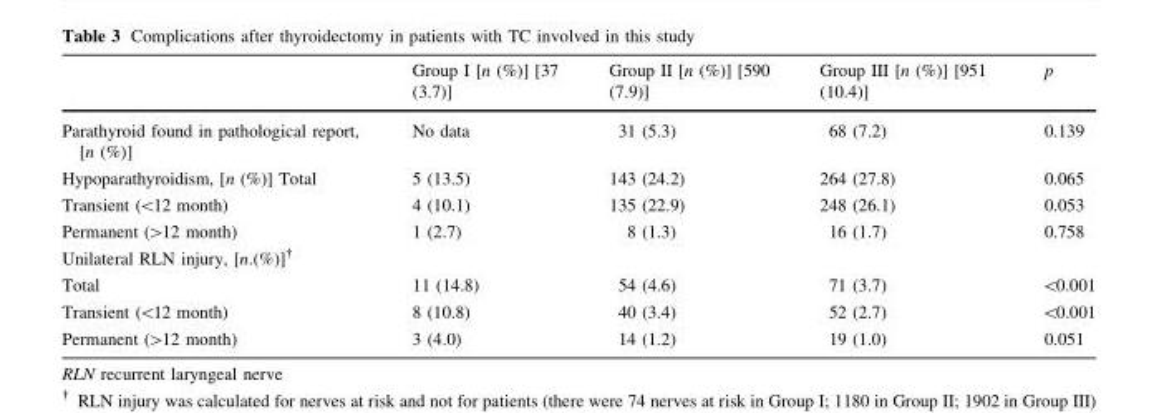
<table><thead><tr><td></td><td>Group I [n (%)] [37 (3.7)]</td><td>Group II [n (%)] [590 (7.9)]</td><td>Group III [n (%)] [951 (10.4)]</td><td>p</td></tr></thead><tbody><tr><td>Parathyroid found in pathological report, [n (%)]</td><td>No data</td><td>31 (5.3)</td><td>68 (7.2)</td><td>0.139</td></tr><tr><td>Hypoparathyroidism, [n (%)] Total</td><td>5 (13.5)</td><td>143 (24.2)</td><td>264 (27.8)</td><td>0.065</td></tr><tr><td>Transient (&lt;12 month)</td><td>4 (10.1)</td><td>135 (22.9)</td><td>248 (26.1)</td><td>0.053</td></tr><tr><td>Permanent (&gt;12 month)</td><td>1 (2.7)</td><td>8 (1.3)</td><td>16 (1.7)</td><td>0.758</td></tr><tr><td colspan="5">Unilateral RLN injury, [n.(%)]<sup>†</sup></td></tr><tr><td>Total</td><td>11 (14.8)</td><td>54 (4.6)</td><td>71 (3.7)</td><td>&lt;0.001</td></tr><tr><td>Transient (&lt;12 month)</td><td>8 (10.8)</td><td>40 (3.4)</td><td>52 (2.7)</td><td>&lt;0.001</td></tr><tr><td>Permanent (&gt;12 month)</td><td>3 (4.0)</td><td>14 (1.2)</td><td>19 (1.0)</td><td>0.051</td></tr></tbody></table>